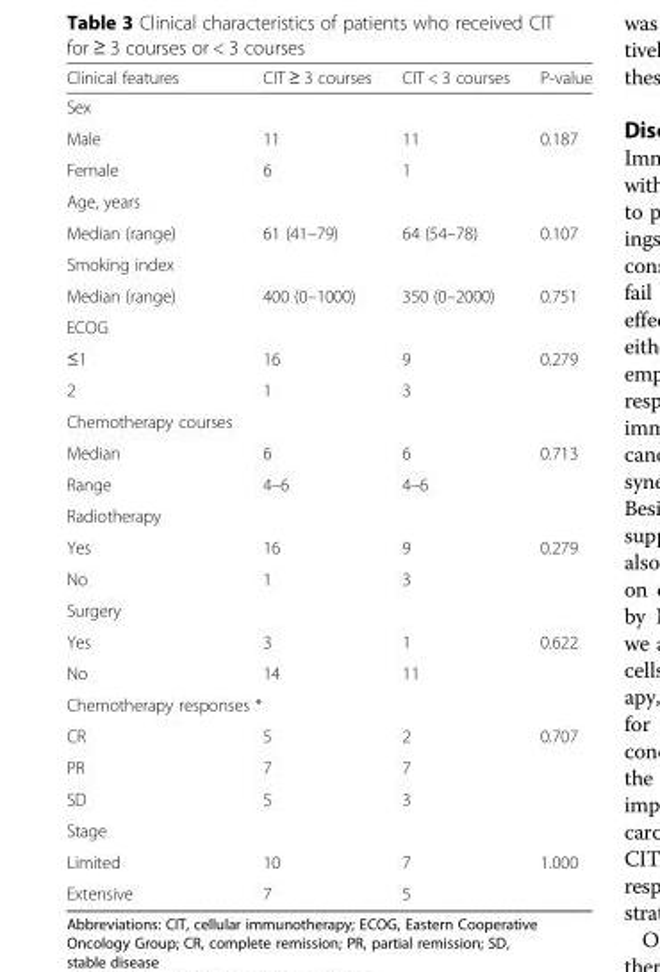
<table><thead><tr><td>Clinical features</td><td>CIT ≥ 3 courses</td><td>CIT &lt; 3 courses</td><td>P-value</td></tr></thead><tbody><tr><td colspan="4">Sex</td></tr><tr><td>Male</td><td>11</td><td>11</td><td rowspan="2">0.187</td></tr><tr><td>Female</td><td>6</td><td>1</td></tr><tr><td colspan="4">Age, years</td></tr><tr><td>Median (range)</td><td>61 (41–79)</td><td>64 (54–78)</td><td>0.107</td></tr><tr><td colspan="4">Smoking index</td></tr><tr><td>Median (range)</td><td>400 (0–1000)</td><td>350 (0–2000)</td><td>0.751</td></tr><tr><td colspan="4">ECOG</td></tr><tr><td>≤1</td><td>16</td><td>9</td><td rowspan="2">0.279</td></tr><tr><td>2</td><td>1</td><td>3</td></tr><tr><td colspan="4">Chemotherapy courses</td></tr><tr><td>Median</td><td>6</td><td>6</td><td rowspan="2">0.713</td></tr><tr><td>Range</td><td>4–6</td><td>4–6</td></tr><tr><td colspan="4">Radiotherapy</td></tr><tr><td>Yes</td><td>16</td><td>9</td><td>0.279</td></tr><tr><td>No</td><td>1</td><td>3</td><td></td></tr><tr><td colspan="4">Surgery</td></tr><tr><td>Yes</td><td>3</td><td>1</td><td rowspan="2">0.622</td></tr><tr><td>No</td><td>14</td><td>11</td></tr><tr><td colspan="4">Chemotherapy responses *</td></tr><tr><td>CR</td><td>5</td><td>2</td><td rowspan="3">0.707</td></tr><tr><td>PR</td><td>7</td><td>7</td></tr><tr><td>SD</td><td>5</td><td>3</td></tr><tr><td colspan="4">Stage</td></tr><tr><td>Limited</td><td>10</td><td>7</td><td rowspan="2">1.000</td></tr><tr><td>Extensive</td><td>7</td><td>5</td></tr></tbody></table>